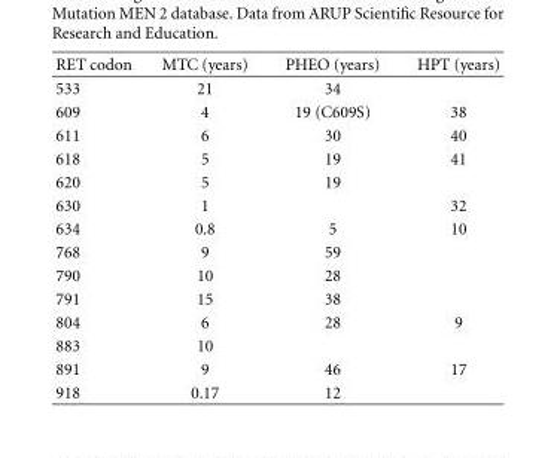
<table><thead><tr><td>RET codon</td><td>MTC (years)</td><td>PHEO (years)</td><td>HPT (years)</td></tr></thead><tbody><tr><td>533</td><td>21</td><td>34</td><td></td></tr><tr><td>609</td><td>4</td><td>19 (C609S)</td><td>38</td></tr><tr><td>611</td><td>6</td><td>30</td><td>40</td></tr><tr><td>618</td><td>5</td><td>19</td><td>41</td></tr><tr><td>620</td><td>5</td><td>19</td><td></td></tr><tr><td>630</td><td>1</td><td></td><td>32</td></tr><tr><td>634</td><td>0.8</td><td>5</td><td>10</td></tr><tr><td>768</td><td>9</td><td>59</td><td></td></tr><tr><td>790</td><td>10</td><td>28</td><td></td></tr><tr><td>791</td><td>15</td><td>38</td><td></td></tr><tr><td>804</td><td>6</td><td>28</td><td>9</td></tr><tr><td>883</td><td>10</td><td></td><td></td></tr><tr><td>891</td><td>9</td><td>46</td><td>17</td></tr><tr><td>918</td><td>0.17</td><td>12</td><td></td></tr></tbody></table>